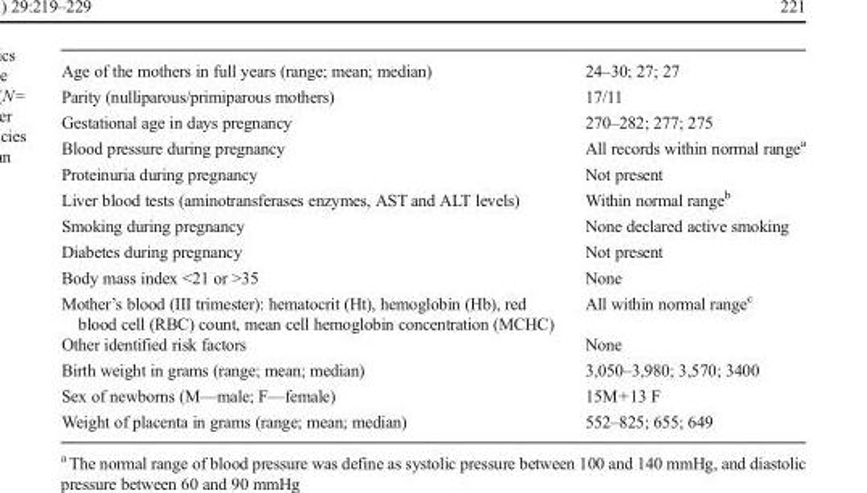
<table><tbody><tr><td>Age of the mothers in full years (range; mean; median)</td><td>24–30; 27; 27</td></tr><tr><td>Parity (nulliparous/primiparous mothers)</td><td>17/11</td></tr><tr><td>Gestational age in days pregnancy</td><td>270–282; 277; 275</td></tr><tr><td>Blood pressure during pregnancy</td><td>All records within normal range<sup>a</sup></td></tr><tr><td>Proteinuria during pregnancy</td><td>Not present</td></tr><tr><td>Liver blood tests (aminotransferases enzymes, AST and ALT levels)</td><td>Within normal range<sup>b</sup></td></tr><tr><td>Smoking during pregnancy</td><td>None declared active smoking</td></tr><tr><td>Diabetes during pregnancy</td><td>Not present</td></tr><tr><td>Body mass index &lt;21 or &gt;35</td><td>None</td></tr><tr><td>Mother’s blood (III trimester): hematocrit (Ht), hemoglobin (Hb), red blood cell (RBC) count, mean cell hemoglobin concentration (MCHC)</td><td>All within normal range<sup>c</sup></td></tr><tr><td>Other identified risk factors</td><td>None</td></tr><tr><td>Birth weight in grams (range; mean; median)</td><td>3,050–3,980; 3,570; 3400</td></tr><tr><td>Sex of newborns (M—male; F—female)</td><td>15M+13 F</td></tr><tr><td>Weight of placenta in grams (range; mean; median)</td><td>552–825; 655; 649</td></tr></tbody></table>